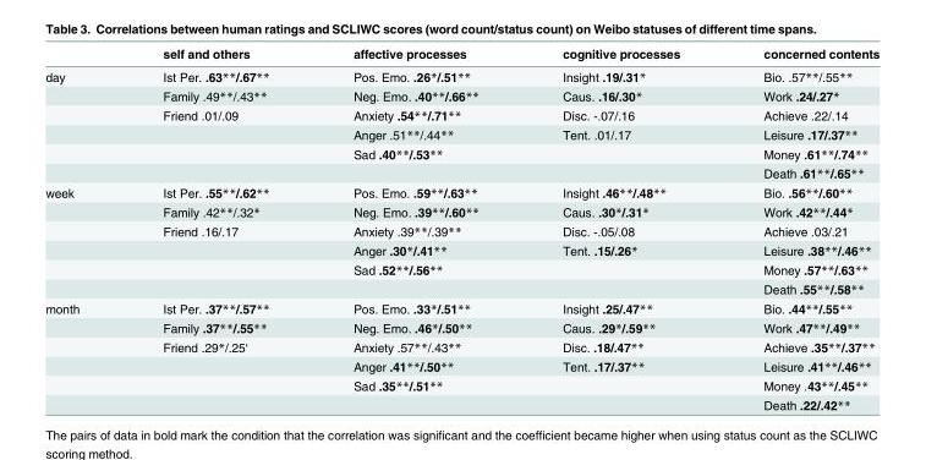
<table><thead><tr><td></td><td>self and others</td><td>affective processes</td><td>cognitive processes</td><td>concerned contents</td></tr></thead><tbody><tr><td rowspan="6">day</td><td>Ist Per. .63**/.67**</td><td>Pos. Emo. .26*/.51**</td><td>Insight .19/.31*</td><td>Bio. .57**/.55**</td></tr><tr><td>Family .49**/.43**</td><td>Neg. Emo. .40**/.66**</td><td>Caus. .16/.30*</td><td>Work .24/.27*</td></tr><tr><td>Friend .01/.09</td><td>Anxiety .54**/.71**</td><td>Disc. -.07/.16</td><td>Achieve .22/.14</td></tr><tr><td></td><td>Anger .51**/.44**</td><td>Tent. .01/.17</td><td>Leisure .17/.37**</td></tr><tr><td></td><td>Sad .40**/.53**</td><td></td><td>Money .61**/.74**</td></tr><tr><td></td><td></td><td></td><td>Death .61**/.65**</td></tr><tr><td rowspan="6">week</td><td>Ist Per. .55**/.62**</td><td>Pos. Emo. .59**/.63**</td><td>Insight .46**/.48**</td><td>Bio. .56**/.60**</td></tr><tr><td>Family .42**/.32*</td><td>Neg. Emo. .39**/.60**</td><td>Caus. .30*/.31*</td><td>Work .42**/.44*</td></tr><tr><td>Friend .16/.17</td><td>Anxiety .39**/.39**</td><td>Disc. -.05/.08</td><td>Achieve .03/.21</td></tr><tr><td></td><td>Anger .30*/.41**</td><td>Tent. .15/.26*</td><td>Leisure .38**/.46**</td></tr><tr><td></td><td>Sad .52**/.56**</td><td></td><td>Money .57**/.63**</td></tr><tr><td></td><td></td><td></td><td>Death .55**/.58**</td></tr><tr><td rowspan="6">month</td><td>Ist Per. .37**/.57**</td><td>Pos. Emo. .33*/.51**</td><td>Insight .25/.47**</td><td>Bio. .44**/.55**</td></tr><tr><td>Family .37**/.55**</td><td>Neg. Emo. .46*/.50**</td><td>Caus. .29*/.59**</td><td>Work .47**/.49**</td></tr><tr><td>Friend .29*/.25‘</td><td>Anxiety .57**/.43**</td><td>Disc. .18/.47**</td><td>Achieve .35**/.37**</td></tr><tr><td></td><td>Anger .41**/.50**</td><td>Tent. .17/.37**</td><td>Leisure .41**/.46**</td></tr><tr><td></td><td>Sad .35**/.51**</td><td></td><td>Money .43**/.45**</td></tr><tr><td></td><td></td><td></td><td>Death .22/.42**</td></tr></tbody></table>